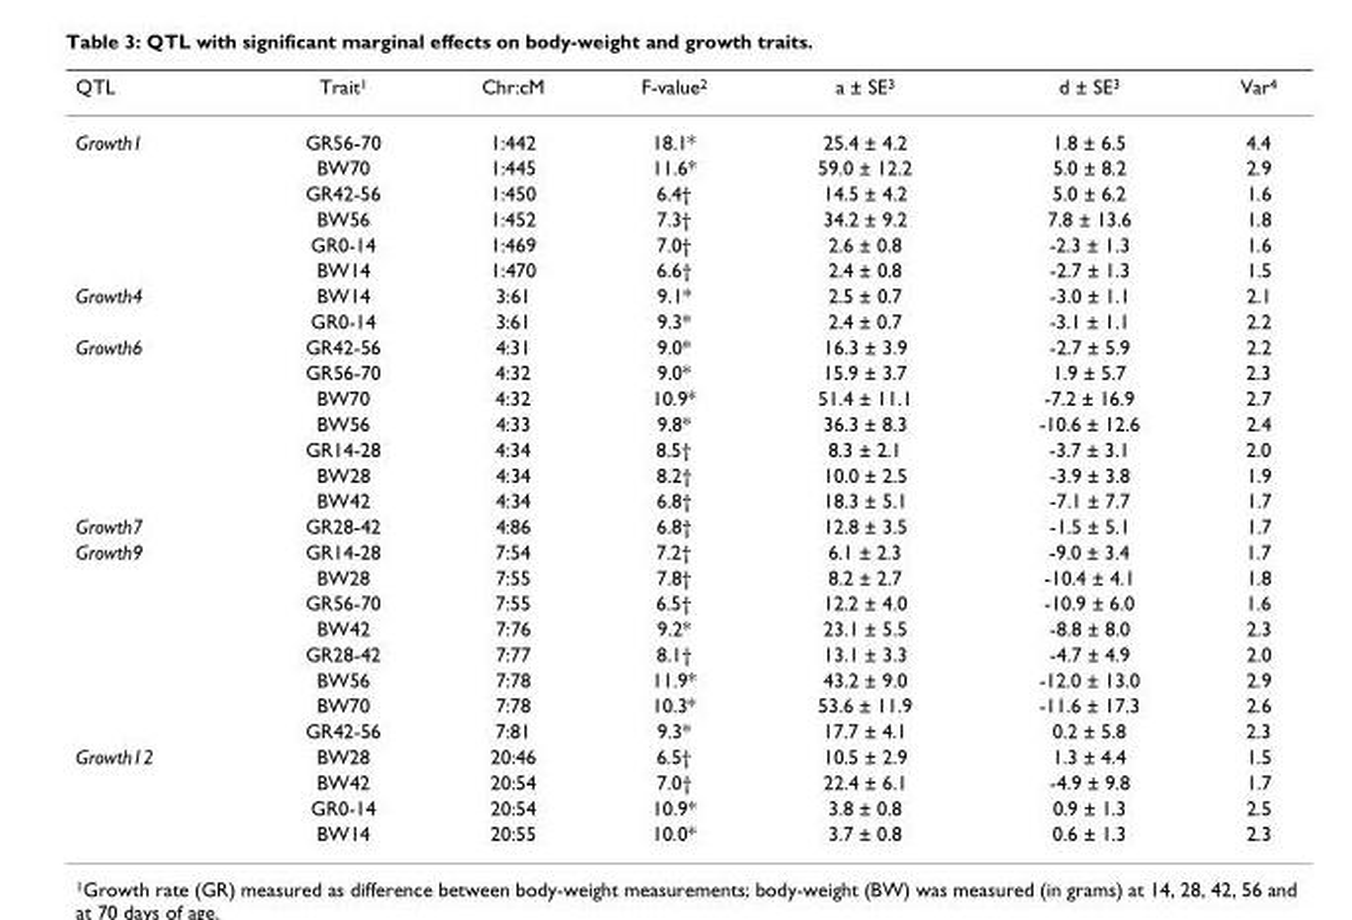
<table><thead><tr><td>QTL</td><td>Trait<sup>1</sup></td><td>Chr:cM</td><td>F-value<sup>2</sup></td><td>a ± SE<sup>3</sup></td><td>d ± SE<sup>3</sup></td><td>Var<sup>4</sup></td></tr></thead><tbody><tr><td rowspan="6">Growth1</td><td>GR56-70</td><td>1:442</td><td>18.1*</td><td>25.4 ± 4.2</td><td>1.8 ± 6.5</td><td>4.4</td></tr><tr><td>BW70</td><td>1:445</td><td>11.6*</td><td>59.0 ± 12.2</td><td>5.0 ± 8.2</td><td>2.9</td></tr><tr><td>GR42-56</td><td>1:450</td><td>6.4†</td><td>14.5 ± 4.2</td><td>5.0 ± 6.2</td><td>1.6</td></tr><tr><td>BW56</td><td>1:452</td><td>7.3†</td><td>34.2 ± 9.2</td><td>7.8 ± 13.6</td><td>1.8</td></tr><tr><td>GR0-14</td><td>1:469</td><td>7.0†</td><td>2.6 ± 0.8</td><td>-2.3 ± 1.3</td><td>1.6</td></tr><tr><td>BW14</td><td>1:470</td><td>6.6†</td><td>2.4 ± 0.8</td><td>-2.7 ± 1.3</td><td>1.5</td></tr><tr><td rowspan="2">Growth4</td><td>BW14</td><td>3:61</td><td>9.1*</td><td>2.5 ± 0.7</td><td>-3.0 ± 1.1</td><td>2.1</td></tr><tr><td>GR0-14</td><td>3:61</td><td>9.3*</td><td>2.4 ± 0.7</td><td>-3.1 ± 1.1</td><td>2.2</td></tr><tr><td rowspan="7">Growth6</td><td>GR42-56</td><td>4:31</td><td>9.0*</td><td>16.3 ± 3.9</td><td>-2.7 ± 5.9</td><td>2.2</td></tr><tr><td>GR56-70</td><td>4:32</td><td>9.0*</td><td>15.9 ± 3.7</td><td>1.9 ± 5.7</td><td>2.3</td></tr><tr><td>BW70</td><td>4:32</td><td>10.9*</td><td>51.4 ± 11.1</td><td>-7.2 ± 16.9</td><td>2.7</td></tr><tr><td>BW56</td><td>4:33</td><td>9.8*</td><td>36.3 ± 8.3</td><td>-10.6 ± 12.6</td><td>2.4</td></tr><tr><td>GR14-28</td><td>4:34</td><td>8.5†</td><td>8.3 ± 2.1</td><td>-3.7 ± 3.1</td><td>2.0</td></tr><tr><td>BW28</td><td>4:34</td><td>8.2†</td><td>10.0 ± 2.5</td><td>-3.9 ± 3.8</td><td>1.9</td></tr><tr><td>BW42</td><td>4:34</td><td>6.8†</td><td>18.3 ± 5.1</td><td>-7.1 ± 7.7</td><td>1.7</td></tr><tr><td>Growth7</td><td>GR28-42</td><td>4:86</td><td>6.8†</td><td>12.8 ± 3.5</td><td>-1.5 ± 5.1</td><td>1.7</td></tr><tr><td rowspan="8">Growth9</td><td>GR14-28</td><td>7:54</td><td>7.2†</td><td>6.1 ± 2.3</td><td>-9.0 ± 3.4</td><td>1.7</td></tr><tr><td>BW28</td><td>7:55</td><td>7.8†</td><td>8.2 ± 2.7</td><td>-10.4 ± 4.1</td><td>1.8</td></tr><tr><td>GR56-70</td><td>7:55</td><td>6.5†</td><td>12.2 ± 4.0</td><td>-10.9 ± 6.0</td><td>1.6</td></tr><tr><td>BW42</td><td>7:76</td><td>9.2*</td><td>23.1 ± 5.5</td><td>-8.8 ± 8.0</td><td>2.3</td></tr><tr><td>GR28-42</td><td>7:77</td><td>8.1†</td><td>13.1 ± 3.3</td><td>-4.7 ± 4.9</td><td>2.0</td></tr><tr><td>BW56</td><td>7:78</td><td>11.9*</td><td>43.2 ± 9.0</td><td>-12.0 ± 13.0</td><td>2.9</td></tr><tr><td>BW70</td><td>7:78</td><td>10.3*</td><td>53.6 ± 11.9</td><td>-11.6 ± 17.3</td><td>2.6</td></tr><tr><td>GR42-56</td><td>7:81</td><td>9.3*</td><td>17.7 ± 4.1</td><td>0.2 ± 5.8</td><td>2.3</td></tr><tr><td rowspan="4">Growth12</td><td>BW28</td><td>20:46</td><td>6.5†</td><td>10.5 ± 2.9</td><td>1.3 ± 4.4</td><td>1.5</td></tr><tr><td>BW42</td><td>20:54</td><td>7.0†</td><td>22.4 ± 6.1</td><td>-4.9 ± 9.8</td><td>1.7</td></tr><tr><td>GR0-14</td><td>20:54</td><td>10.9*</td><td>3.8 ± 0.8</td><td>0.9 ± 1.3</td><td>2.5</td></tr><tr><td>BW14</td><td>20:55</td><td>10.0*</td><td>3.7 ± 0.8</td><td>0.6 ± 1.3</td><td>2.3</td></tr></tbody></table>